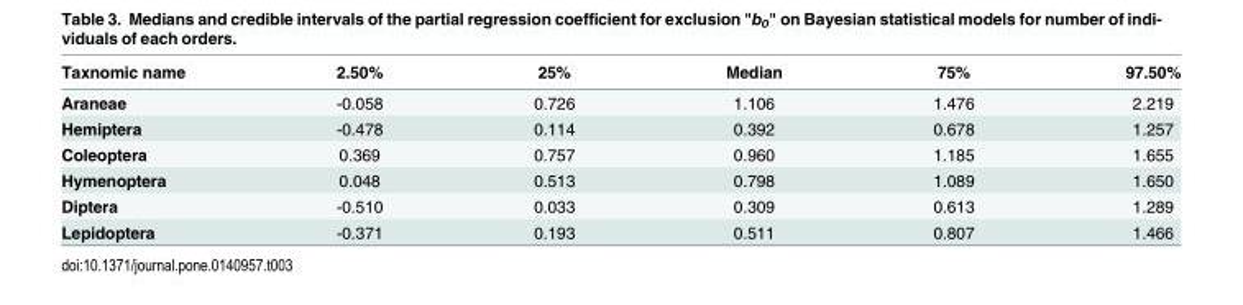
<table><thead><tr><td>Taxnomic name</td><td>2.50%</td><td>25%</td><td>Median</td><td>75%</td><td>97.50%</td></tr></thead><tbody><tr><td>Araneae</td><td>-0.058</td><td>0.726</td><td>1.106</td><td>1.476</td><td>2.219</td></tr><tr><td>Hemiptera</td><td>-0.478</td><td>0.114</td><td>0.392</td><td>0.678</td><td>1.257</td></tr><tr><td>Coleoptera</td><td>0.369</td><td>0.757</td><td>0.960</td><td>1.185</td><td>1.655</td></tr><tr><td>Hymenoptera</td><td>0.048</td><td>0.513</td><td>0.798</td><td>1.089</td><td>1.650</td></tr><tr><td>Diptera</td><td>-0.510</td><td>0.033</td><td>0.309</td><td>0.613</td><td>1.289</td></tr><tr><td>Lepidoptera</td><td>-0.371</td><td>0.193</td><td>0.511</td><td>0.807</td><td>1.466</td></tr></tbody></table>